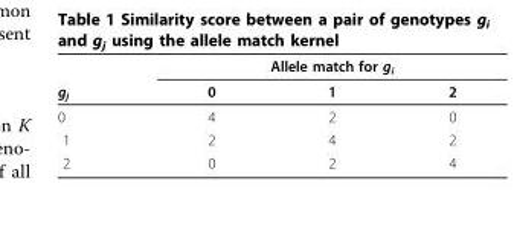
<table><thead><tr><td rowspan="2">g<sub>j</sub></td><td colspan="3">Allele match for g<sub>i</sub></td></tr><tr><td>0</td><td>1</td><td>2</td></tr></thead><tbody><tr><td>0</td><td>4</td><td>2</td><td>0</td></tr><tr><td>1</td><td>2</td><td>4</td><td>2</td></tr><tr><td>2</td><td>0</td><td>2</td><td>4</td></tr></tbody></table>